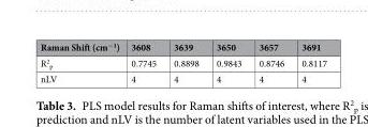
<table><thead><tr><td>Raman Shift (cm<sup>−1</sup>)</td><td>3608</td><td>3639</td><td>3650</td><td>3657</td><td>3691</td></tr></thead><tbody><tr><td>R<sup>2</sup> <sub>p</sub></td><td>0.7745</td><td>0.8898</td><td>0.9843</td><td>0.8746</td><td>0.8117</td></tr><tr><td>nLV</td><td>4</td><td>4</td><td>4</td><td>4</td><td>4</td></tr></tbody></table>